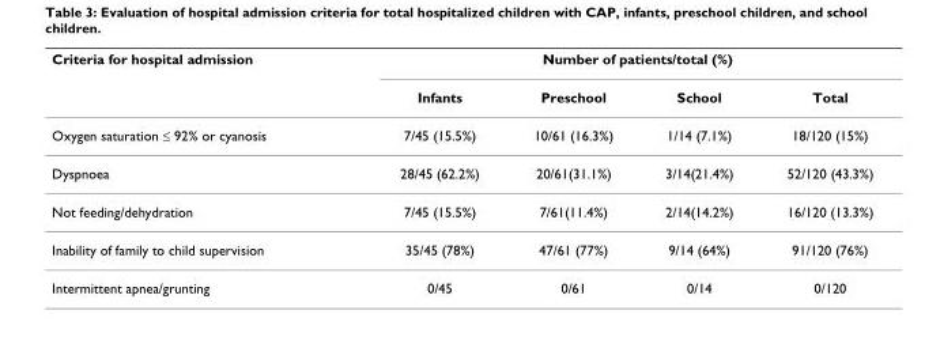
<table><thead><tr><td rowspan="2">Criteria for hospital admission</td><td colspan="4">Number of patients/total (%)</td></tr><tr><td>Infants</td><td>Preschool</td><td>School</td><td>Total</td></tr></thead><tbody><tr><td>Oxygen saturation ≤ 92% or cyanosis</td><td>7/45 (15.5%)</td><td>10/61 (16.3%)</td><td>1/14 (7.1%)</td><td>18/120 (15%)</td></tr><tr><td>Dyspnoea</td><td>28/45 (62.2%)</td><td>20/61(31.1%)</td><td>3/14(21.4%)</td><td>52/120 (43.3%)</td></tr><tr><td>Not feeding/dehydration</td><td>7/45 (15.5%)</td><td>7/61(11.4%)</td><td>2/14(14.2%)</td><td>16/120 (13.3%)</td></tr><tr><td>Inability of family to child supervision</td><td>35/45 (78%)</td><td>47/61 (77%)</td><td>9/14 (64%)</td><td>91/120 (76%)</td></tr><tr><td>Intermittent apnea/grunting</td><td>0/45</td><td>0/61</td><td>0/14</td><td>0/120</td></tr></tbody></table>